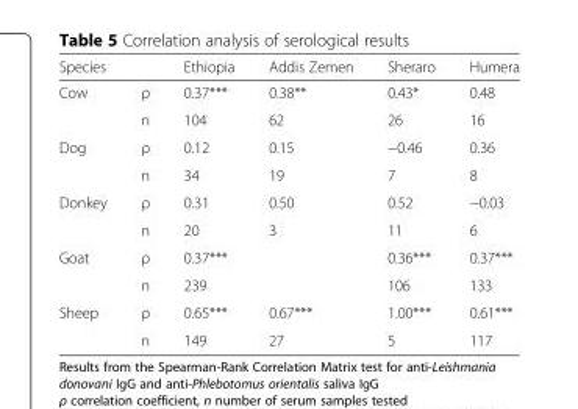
<table><thead><tr><td>Species</td><td></td><td>Ethiopia</td><td>Addis Zemen</td><td>Sheraro</td><td>Humera</td></tr></thead><tbody><tr><td rowspan="2">Cow</td><td>ρ</td><td>0.37***</td><td>0.38**</td><td>0.43*</td><td>0.48</td></tr><tr><td>n</td><td>104</td><td>62</td><td>26</td><td>16</td></tr><tr><td rowspan="2">Dog</td><td>ρ</td><td>0.12</td><td>0.15</td><td>−0.46</td><td>0.36</td></tr><tr><td>n</td><td>34</td><td>19</td><td>7</td><td>8</td></tr><tr><td rowspan="2">Donkey</td><td>ρ</td><td>0.31</td><td>0.50</td><td>0.52</td><td>−0.03</td></tr><tr><td>n</td><td>20</td><td>3</td><td>11</td><td>6</td></tr><tr><td rowspan="2">Goat</td><td>ρ</td><td>0.37***</td><td></td><td>0.36***</td><td>0.37***</td></tr><tr><td>n</td><td>239</td><td></td><td>106</td><td>133</td></tr><tr><td rowspan="2">Sheep</td><td>ρ</td><td>0.65***</td><td>0.67***</td><td>1.00***</td><td>0.61***</td></tr><tr><td>n</td><td>149</td><td>27</td><td>5</td><td>117</td></tr></tbody></table>